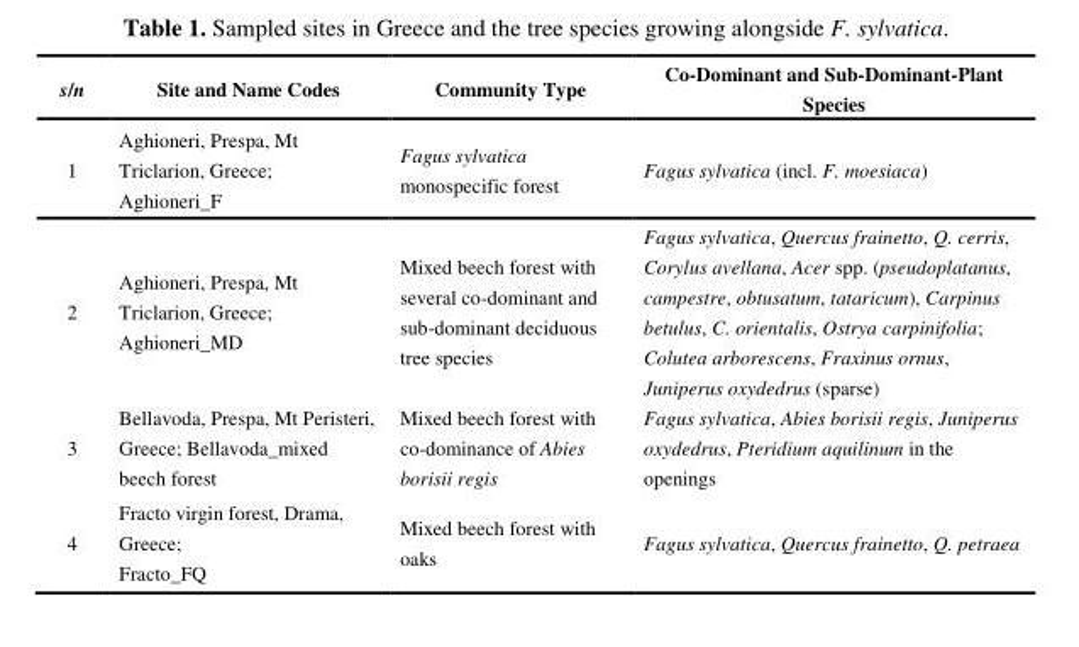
<table><thead><tr><td>s/n</td><td>Site and Name Codes</td><td>Community Type</td><td>Co-Dominant and Sub-Dominant-Plant Species</td></tr></thead><tbody><tr><td>1</td><td>Aghioneri, Prespa, Mt Triclarion, Greece; Aghioneri_F</td><td>Fagus sylvatica monospecific forest</td><td>Fagus sylvatica (incl. F. moesiaca)</td></tr><tr><td>2</td><td>Aghioneri, Prespa, Mt Triclarion, Greece; Aghioneri_MD</td><td>Mixed beech forest with several co-dominant and sub-dominant deciduous tree species</td><td>Fagus sylvatica, Quercus frainetto, Q. cerris, Corylus avellana, Acer spp. (pseudoplatanus, campestre, obtusatum, tataricum), Carpinus betulus, C. orientalis, Ostrya carpinifolia; Colutea arborescens, Fraxinus ornus, Juniperus oxydedrus (sparse)</td></tr><tr><td>3</td><td>Bellavoda, Prespa, Mt Peristeri, Greece; Bellavoda_mixed beech forest</td><td>Mixed beech forest with co-dominance of Abies borisii regis</td><td>Fagus sylvatica, Abies borisii regis, Juniperus oxydedrus, Pteridium aquilinum in the openings</td></tr><tr><td>4</td><td>Fracto virgin forest, Drama, Greece; Fracto_FQ</td><td>Mixed beech forest with oaks</td><td>Fagus sylvatica, Quercus frainetto, Q. petraea</td></tr></tbody></table>